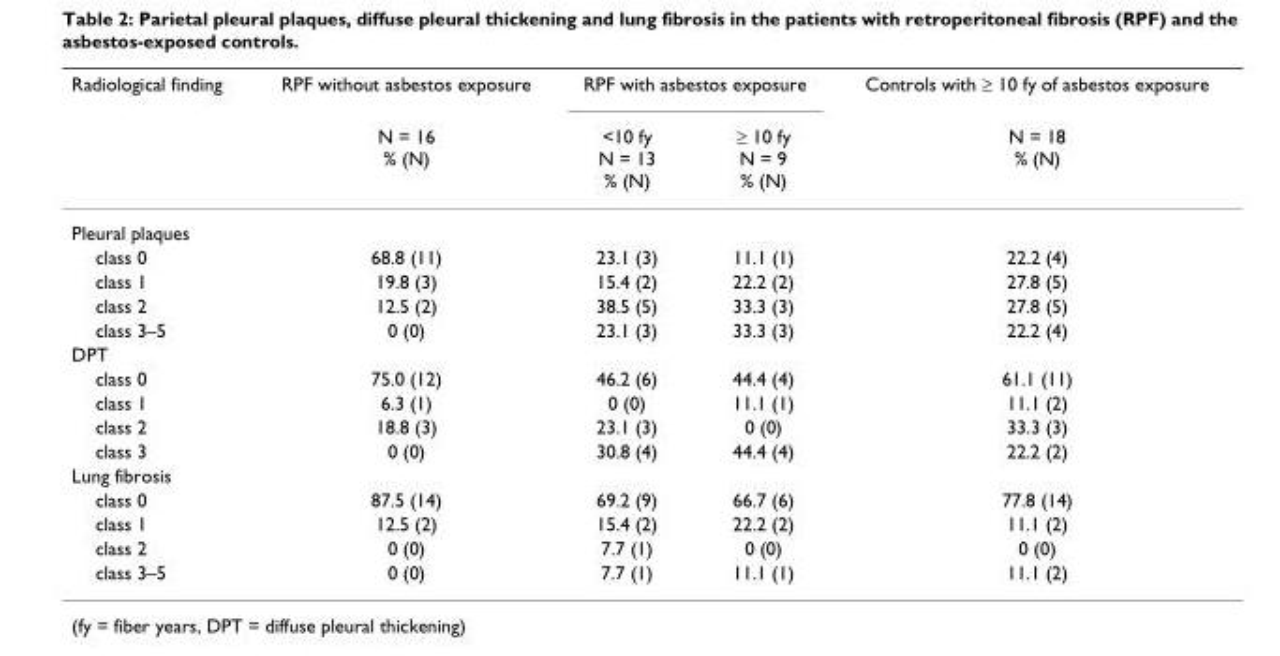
<table><thead><tr><td rowspan="2">Radiological finding</td><td rowspan="2">RPF without asbestos exposure N = 16 % (N)</td><td colspan="2">RPF with asbestos exposure</td><td rowspan="2">Controls with ≥ 10 fy of asbestos exposure N = 18 % (N)</td></tr><tr><td>&lt;10 fy N = 13 % (N)</td><td>≥ 10 fy N = 9 % (N)</td></tr></thead><tbody><tr><td colspan="5">Pleural plaques</td></tr><tr><td>class 0</td><td>68.8 (11)</td><td>23.1 (3)</td><td>11.1 (1)</td><td>22.2 (4)</td></tr><tr><td>class 1</td><td>19.8 (3)</td><td>15.4 (2)</td><td>22.2 (2)</td><td>27.8 (5)</td></tr><tr><td>class 2</td><td>12.5 (2)</td><td>38.5 (5)</td><td>33.3 (3)</td><td>27.8 (5)</td></tr><tr><td>class 3–5</td><td>0 (0)</td><td>23.1 (3)</td><td>33.3 (3)</td><td>22.2 (4)</td></tr><tr><td colspan="5">DPT</td></tr><tr><td>class 0</td><td>75.0 (12)</td><td>46.2 (6)</td><td>44.4 (4)</td><td>61.1 (11)</td></tr><tr><td>class 1</td><td>6.3 (1)</td><td>0 (0)</td><td>11.1 (1)</td><td>11.1 (2)</td></tr><tr><td>class 2</td><td>18.8 (3)</td><td>23.1 (3)</td><td>0 (0)</td><td>33.3 (3)</td></tr><tr><td>class 3</td><td>0 (0)</td><td>30.8 (4)</td><td>44.4 (4)</td><td>22.2 (2)</td></tr><tr><td colspan="5">Lung fibrosis</td></tr><tr><td>class 0</td><td>87.5 (14)</td><td>69.2 (9)</td><td>66.7 (6)</td><td>77.8 (14)</td></tr><tr><td>class 1</td><td>12.5 (2)</td><td>15.4 (2)</td><td>22.2 (2)</td><td>11.1 (2)</td></tr><tr><td>class 2</td><td>0 (0)</td><td>7.7 (1)</td><td>0 (0)</td><td>0 (0)</td></tr><tr><td>class 3–5</td><td>0 (0)</td><td>7.7 (1)</td><td>11.1 (1)</td><td>11.1 (2)</td></tr></tbody></table>